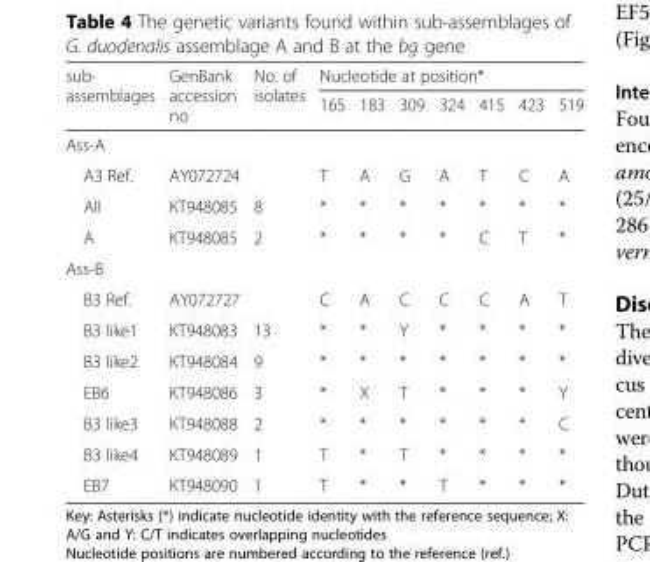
<table><thead><tr><td rowspan="2">sub- assemblages</td><td rowspan="2">GenBank accession no</td><td rowspan="2">No. of isolates</td><td colspan="7">Nucleotide at position*</td></tr><tr><td>165</td><td>183</td><td>309</td><td>324</td><td>415</td><td>423</td><td>519</td></tr></thead><tbody><tr><td colspan="10">Ass-A</td></tr><tr><td>A3 Ref.</td><td>AY072724</td><td></td><td>T</td><td>A</td><td>G</td><td>A</td><td>T</td><td>C</td><td>A</td></tr><tr><td>AII</td><td>KT948085</td><td>8</td><td>*</td><td>*</td><td>*</td><td>*</td><td>*</td><td>*</td><td>*</td></tr><tr><td>A</td><td>KT948085</td><td>2</td><td>*</td><td>*</td><td>*</td><td>*</td><td>C</td><td>T</td><td>*</td></tr><tr><td colspan="10">Ass-B</td></tr><tr><td>B3 Ref.</td><td>AY072727</td><td></td><td>C</td><td>A</td><td>C</td><td>C</td><td>C</td><td>A</td><td>T</td></tr><tr><td>B3 like1</td><td>KT948083</td><td>13</td><td>*</td><td>*</td><td>Y</td><td>*</td><td>*</td><td>*</td><td>*</td></tr><tr><td>B3 like2</td><td>KT948084</td><td>9</td><td>*</td><td>*</td><td>*</td><td>*</td><td>*</td><td>*</td><td>*</td></tr><tr><td>EB6</td><td>KT948086</td><td>3</td><td>*</td><td>X</td><td>T</td><td>*</td><td>*</td><td>*</td><td>Y</td></tr><tr><td>B3 like3</td><td>KT948088</td><td>2</td><td>*</td><td>*</td><td>*</td><td>*</td><td>*</td><td>*</td><td>C</td></tr><tr><td>B3 like4</td><td>KT948089</td><td>1</td><td>T</td><td>*</td><td>T</td><td>*</td><td>*</td><td>*</td><td>*</td></tr><tr><td>EB7</td><td>KT948090</td><td>1</td><td>T</td><td>*</td><td>*</td><td>T</td><td>*</td><td>*</td><td>*</td></tr></tbody></table>